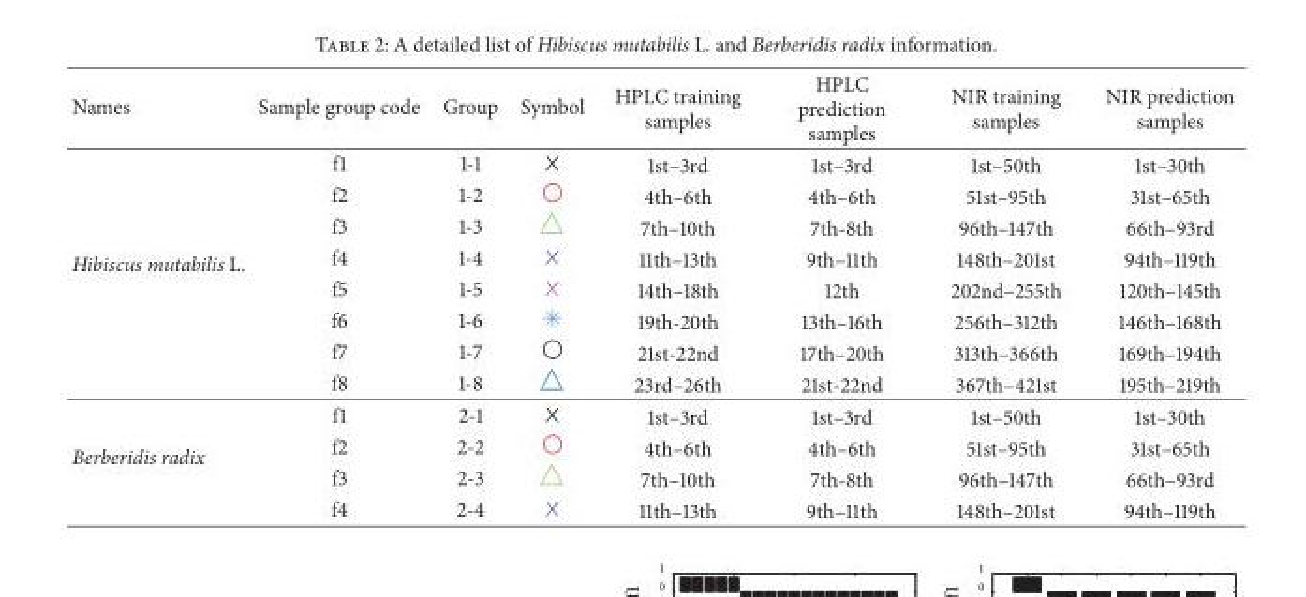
<table><thead><tr><td>Names</td><td>Sample group code</td><td>Group</td><td>Symbol</td><td>HPLC training samples</td><td>HPLC prediction samples</td><td>NIR training samples</td><td>NIR prediction samples</td></tr></thead><tbody><tr><td rowspan="8">Hibiscus mutabilis L.</td><td>f1</td><td>1-1</td><td></td><td>1st–3rd</td><td>1st–3rd</td><td>1st–50th</td><td>1st–30th</td></tr><tr><td>f2</td><td>1-2</td><td></td><td>4th–6th</td><td>4th–6th</td><td>51st–95th</td><td>31st–65th</td></tr><tr><td>f3</td><td>1-3</td><td></td><td>7th–10th</td><td>7th-8th</td><td>96th–147th</td><td>66th–93rd</td></tr><tr><td>f4</td><td>1-4</td><td></td><td>11th–13th</td><td>9th–11th</td><td>148th–201st</td><td>94th–119th</td></tr><tr><td>f5</td><td>1-5</td><td></td><td>14th–18th</td><td>12th</td><td>202nd–255th</td><td>120th–145th</td></tr><tr><td>f6</td><td>1-6</td><td></td><td>19th-20th</td><td>13th–16th</td><td>256th–312th</td><td>146th–168th</td></tr><tr><td>f7</td><td>1-7</td><td></td><td>21st-22nd</td><td>17th–20th</td><td>313th–366th</td><td>169th–194th</td></tr><tr><td>f8</td><td>1-8</td><td></td><td>23rd–26th</td><td>21st-22nd</td><td>367th–421st</td><td>195th–219th</td></tr><tr><td rowspan="4">Berberidis radix</td><td>f1</td><td>2-1</td><td></td><td>1st–3rd</td><td>1st–3rd</td><td>1st–50th</td><td>1st–30th</td></tr><tr><td>f2</td><td>2-2</td><td></td><td>4th–6th</td><td>4th–6th</td><td>51st–95th</td><td>31st–65th</td></tr><tr><td>f3</td><td>2-3</td><td></td><td>7th–10th</td><td>7th-8th</td><td>96th–147th</td><td>66th–93rd</td></tr><tr><td>f4</td><td>2-4</td><td></td><td>11th–13th</td><td>9th–11th</td><td>148th–201st</td><td>94th–119th</td></tr></tbody></table>